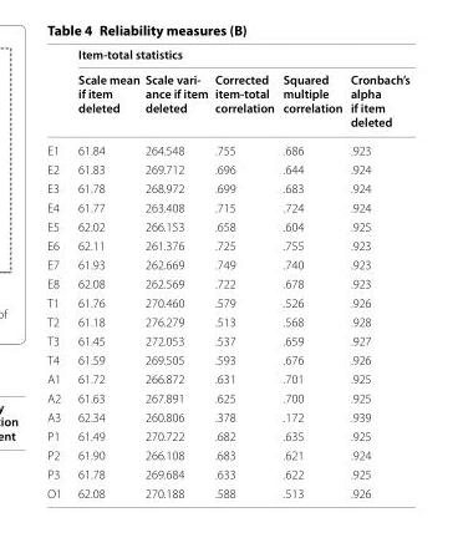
<table><thead><tr><td rowspan="2"></td><td colspan="5">Item-total statistics</td></tr><tr><td>Scale mean if item deleted</td><td>Scale vari- ance if item deleted</td><td>Corrected item-total correlation</td><td>Squared multiple correlation</td><td>Cronbach’s alpha if item deleted</td></tr></thead><tbody><tr><td>E1</td><td>61.84</td><td>264.548</td><td>.755</td><td>.686</td><td>.923</td></tr><tr><td>E2</td><td>61.83</td><td>269.712</td><td>.696</td><td>.644</td><td>.924</td></tr><tr><td>E3</td><td>61.78</td><td>268.972</td><td>.699</td><td>.683</td><td>.924</td></tr><tr><td>E4</td><td>61.77</td><td>263.408</td><td>.715</td><td>.724</td><td>.924</td></tr><tr><td>E5</td><td>62.02</td><td>266.153</td><td>.658</td><td>.604</td><td>.925</td></tr><tr><td>E6</td><td>62.11</td><td>261.376</td><td>.725</td><td>.755</td><td>.923</td></tr><tr><td>E7</td><td>61.93</td><td>262.669</td><td>.749</td><td>.740</td><td>.923</td></tr><tr><td>E8</td><td>62.08</td><td>262.569</td><td>.722</td><td>.678</td><td>.923</td></tr><tr><td>T1</td><td>61.76</td><td>270.460</td><td>.579</td><td>.526</td><td>.926</td></tr><tr><td>T2</td><td>61.18</td><td>276.279</td><td>.513</td><td>.568</td><td>.928</td></tr><tr><td>T3</td><td>61.45</td><td>272.053</td><td>.537</td><td>.659</td><td>.927</td></tr><tr><td>T4</td><td>61.59</td><td>269.505</td><td>.593</td><td>.676</td><td>.926</td></tr><tr><td>A1</td><td>61.72</td><td>266.872</td><td>.631</td><td>.701</td><td>.925</td></tr><tr><td>A2</td><td>61.63</td><td>267.891</td><td>.625</td><td>.700</td><td>.925</td></tr><tr><td>A3</td><td>62.34</td><td>260.806</td><td>.378</td><td>.172</td><td>.939</td></tr><tr><td>P1</td><td>61.49</td><td>270.722</td><td>.682</td><td>.635</td><td>.925</td></tr><tr><td>P2</td><td>61.90</td><td>266.108</td><td>.683</td><td>.621</td><td>.924</td></tr><tr><td>P3</td><td>61.78</td><td>269.684</td><td>.633</td><td>.622</td><td>.925</td></tr><tr><td>O1</td><td>62.08</td><td>270.188</td><td>.588</td><td>.513</td><td>.926</td></tr></tbody></table>